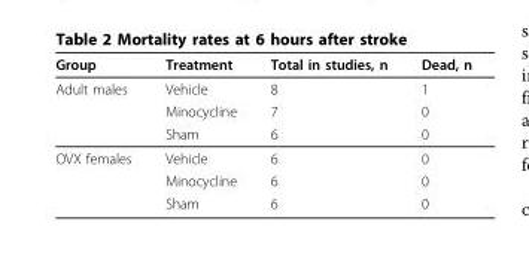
<table><thead><tr><td>Group</td><td>Treatment</td><td>Total in studies, n</td><td>Dead, n</td></tr></thead><tbody><tr><td rowspan="3">Adult males</td><td>Vehicle</td><td>8</td><td>1</td></tr><tr><td>Minocycline</td><td>7</td><td>0</td></tr><tr><td>Sham</td><td>6</td><td>0</td></tr><tr><td rowspan="3">OVX females</td><td>Vehicle</td><td>6</td><td>0</td></tr><tr><td>Minocycline</td><td>6</td><td>0</td></tr><tr><td>Sham</td><td>6</td><td>0</td></tr></tbody></table>